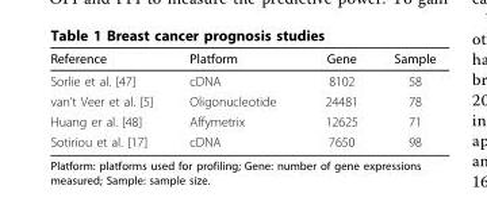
<table><thead><tr><td>Reference</td><td>Platform</td><td>Gene</td><td>Sample</td></tr></thead><tbody><tr><td>Sorlie et al. [47]</td><td>cDNA</td><td>8102</td><td>58</td></tr><tr><td>van’t Veer et al. [5]</td><td>Oligonucleotide</td><td>24481</td><td>78</td></tr><tr><td>Huang er al. [48]</td><td>Affymetrix</td><td>12625</td><td>71</td></tr><tr><td>Sotiriou et al. [17]</td><td>cDNA</td><td>7650</td><td>98</td></tr></tbody></table>